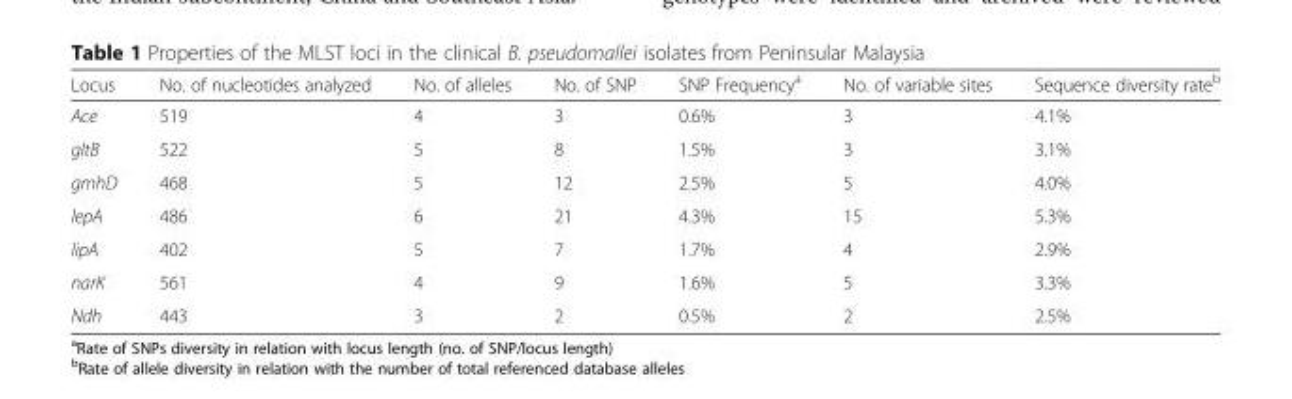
<table><thead><tr><td>Locus</td><td>No. of nucleotides analyzed</td><td>No. of alleles</td><td>No. of SNP</td><td>SNP Frequency<sup>a</sup></td><td>No. of variable sites</td><td>Sequence diversity rate<sup>b</sup></td></tr></thead><tbody><tr><td>Ace</td><td>519</td><td>4</td><td>3</td><td>0.6%</td><td>3</td><td>4.1%</td></tr><tr><td>gltB</td><td>522</td><td>5</td><td>8</td><td>1.5%</td><td>3</td><td>3.1%</td></tr><tr><td>gmhD</td><td>468</td><td>5</td><td>12</td><td>2.5%</td><td>5</td><td>4.0%</td></tr><tr><td>lepA</td><td>486</td><td>6</td><td>21</td><td>4.3%</td><td>15</td><td>5.3%</td></tr><tr><td>lipA</td><td>402</td><td>5</td><td>7</td><td>1.7%</td><td>4</td><td>2.9%</td></tr><tr><td>narK</td><td>561</td><td>4</td><td>9</td><td>1.6%</td><td>5</td><td>3.3%</td></tr><tr><td>Ndh</td><td>443</td><td>3</td><td>2</td><td>0.5%</td><td>2</td><td>2.5%</td></tr></tbody></table>